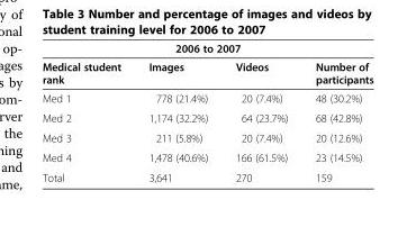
<table><thead><tr><td colspan="4">2006 to 2007</td></tr><tr><td>Medical student rank</td><td>Images</td><td>Videos</td><td>Number of participants</td></tr></thead><tbody><tr><td>Med 1</td><td>778 (21.4%)</td><td>20 (7.4%)</td><td>48 (30.2%)</td></tr><tr><td>Med 2</td><td>1,174 (32.2%)</td><td>64 (23.7%)</td><td>68 (42.8%)</td></tr><tr><td>Med 3</td><td>211 (5.8%)</td><td>20 (7.4%)</td><td>20 (12.6%)</td></tr><tr><td>Med 4</td><td>1,478 (40.6%)</td><td>166 (61.5%)</td><td>23 (14.5%)</td></tr><tr><td>Total</td><td>3,641</td><td>270</td><td>159</td></tr></tbody></table>